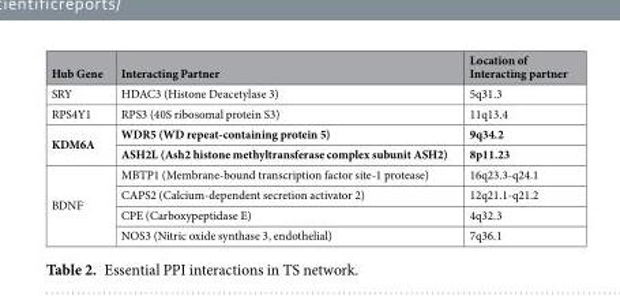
<table><thead><tr><td>Hub Gene</td><td>Interacting Partner</td><td>Location of Interacting partner</td></tr></thead><tbody><tr><td>SRY</td><td>HDAC3 (Histone Deacetylase 3)</td><td>5q31.3</td></tr><tr><td>RPS4Y1</td><td>RPS3 (40S ribosomal protein S3)</td><td>11q13.4</td></tr><tr><td rowspan="2">KDM6A</td><td>WDR5 (WD repeat-containing protein 5)</td><td>9q34.2</td></tr><tr><td>ASH2L (Ash2 histone methyltransferase complex subunit ASH2)</td><td>8p11.23</td></tr><tr><td rowspan="4">BDNF</td><td>MBTP1 (Membrane-bound transcription factor site-1 protease)</td><td>16q23.3-q24.1</td></tr><tr><td>CAPS2 (Calcium-dependent secretion activator 2)</td><td>12q21.1-q21.2</td></tr><tr><td>CPE (Carboxypeptidase E)</td><td>4q32.3</td></tr><tr><td>NOS3 (Nitric oxide synthase 3, endothelial)</td><td>7q36.1</td></tr></tbody></table>